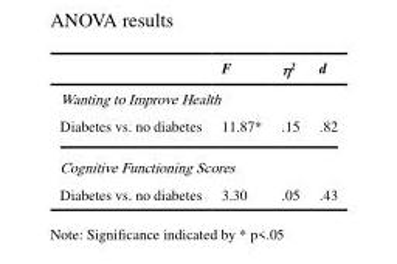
<table><thead><tr><td></td><td>F</td><td>η<sup>2</sup></td><td>d</td></tr></thead><tbody><tr><td colspan="4">Wanting to Improve Health</td></tr><tr><td>Diabetes vs. no diabetes</td><td>11.87*</td><td>.15</td><td>.82</td></tr><tr><td colspan="4">Cognitive Functioning Scores</td></tr><tr><td>Diabetes vs. no diabetes</td><td>3.30</td><td>.05</td><td>.43</td></tr></tbody></table>